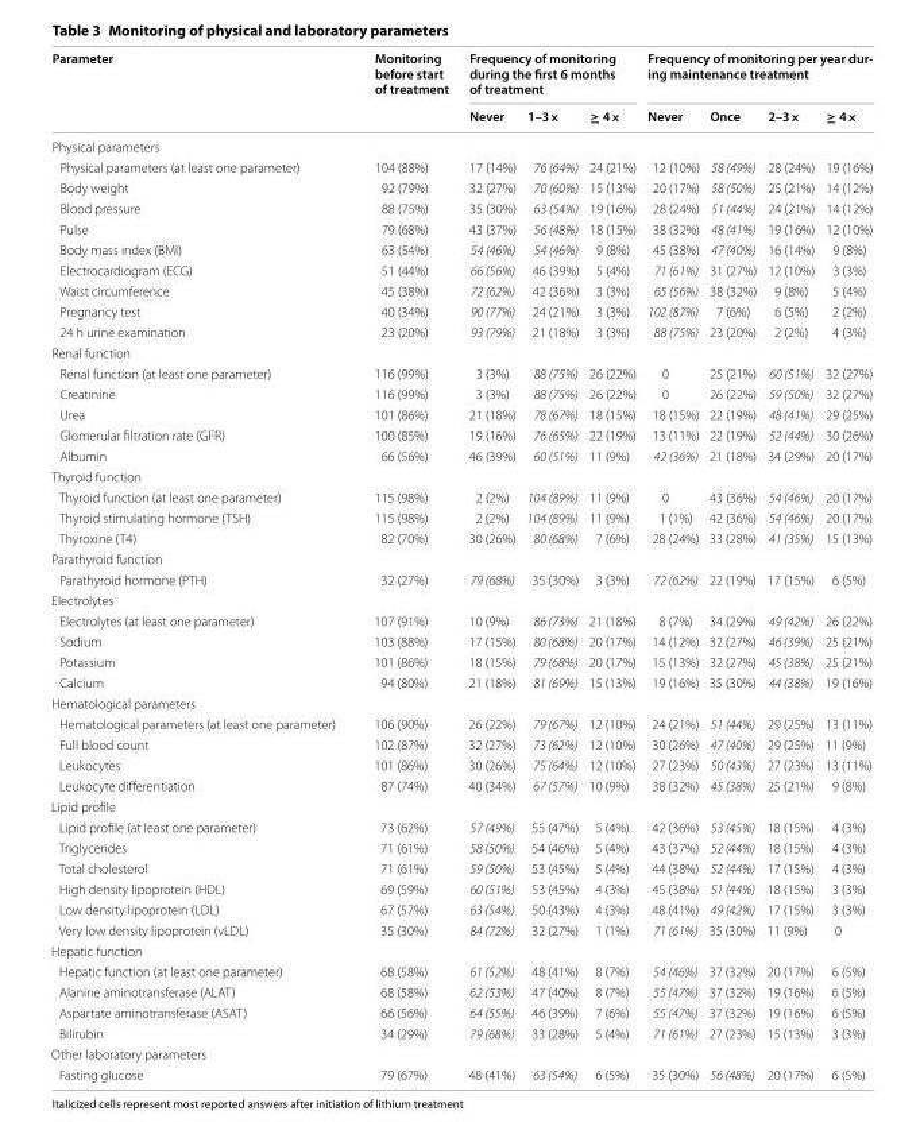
<table><thead><tr><td rowspan="2">Parameter</td><td rowspan="2">Monitoring before start of treatment</td><td colspan="3">Frequency of monitoring during the first 6 months of treatment</td><td colspan="4">Frequency of monitoring per year dur- ing maintenance treatment</td></tr><tr><td>Never</td><td>1–3×</td><td>≥ 4×</td><td>Never</td><td>Once</td><td>2–3×</td><td>≥ 4×</td></tr></thead><tbody><tr><td colspan="9">Physical parameters</td></tr><tr><td>Physical parameters (at least one parameter)</td><td>104 (88%)</td><td>17 (14%)</td><td>76 (64%)</td><td>24 (21%)</td><td>12 (10%)</td><td>58 (49%)</td><td>28 (24%)</td><td>19 (16%)</td></tr><tr><td>Body weight</td><td>92 (79%)</td><td>32 (27%)</td><td>70 (60%)</td><td>15 (13%)</td><td>20 (17%)</td><td>58 (50%)</td><td>25 (21%)</td><td>14 (12%)</td></tr><tr><td>Blood pressure</td><td>88 (75%)</td><td>35 (30%)</td><td>63 (54%)</td><td>19 (16%)</td><td>28 (24%)</td><td>51 (44%)</td><td>24 (21%)</td><td>14 (12%)</td></tr><tr><td>Pulse</td><td>79 (68%)</td><td>43 (37%)</td><td>56 (48%)</td><td>18 (15%)</td><td>38 (32%)</td><td>48 (41%)</td><td>19 (16%)</td><td>12 (10%)</td></tr><tr><td>Body mass index (BMI)</td><td>63 (54%)</td><td>54 (46%)</td><td>54 (46%)</td><td>9 (8%)</td><td>45 (38%)</td><td>47 (40%)</td><td>16 (14%)</td><td>9 (8%)</td></tr><tr><td>Electrocardiogram (ECG)</td><td>51 (44%)</td><td>66 (56%)</td><td>46 (39%)</td><td>5 (4%)</td><td>71 (61%)</td><td>31 (27%)</td><td>12 (10%)</td><td>3 (3%)</td></tr><tr><td>Waist circumference</td><td>45 (38%)</td><td>72 (62%)</td><td>42 (36%)</td><td>3 (3%)</td><td>65 (56%)</td><td>38 (32%)</td><td>9 (8%)</td><td>5 (4%)</td></tr><tr><td>Pregnancy test</td><td>40 (34%)</td><td>90 (77%)</td><td>24 (21%)</td><td>3 (3%)</td><td>102 (87%)</td><td>7 (6%)</td><td>6 (5%)</td><td>2 (2%)</td></tr><tr><td>24 h urine examination</td><td>23 (20%)</td><td>93 (79%)</td><td>21 (18%)</td><td>3 (3%)</td><td>88 (75%)</td><td>23 (20%)</td><td>2 (2%)</td><td>4 (3%)</td></tr><tr><td colspan="9">Renal function</td></tr><tr><td>Renal function (at least one parameter)</td><td>116 (99%)</td><td>3 (3%)</td><td>88 (75%)</td><td>26 (22%)</td><td>0</td><td>25 (21%)</td><td>60 (51%)</td><td>32 (27%)</td></tr><tr><td>Creatinine</td><td>116 (99%)</td><td>3 (3%)</td><td>88 (75%)</td><td>26 (22%)</td><td>0</td><td>26 (22%)</td><td>59 (50%)</td><td>32 (27%)</td></tr><tr><td>Urea</td><td>101 (86%)</td><td>21 (18%)</td><td>78 (67%)</td><td>18 (15%)</td><td>18 (15%)</td><td>22 (19%)</td><td>48 (41%)</td><td>29 (25%)</td></tr><tr><td>Glomerular filtration rate (GFR)</td><td>100 (85%)</td><td>19 (16%)</td><td>76 (65%)</td><td>22 (19%)</td><td>13 (11%)</td><td>22 (19%)</td><td>52 (44%)</td><td>30 (26%)</td></tr><tr><td>Albumin</td><td>66 (56%)</td><td>46 (39%)</td><td>60 (51%)</td><td>11 (9%)</td><td>42 (36%)</td><td>21 (18%)</td><td>34 (29%)</td><td>20 (17%)</td></tr><tr><td colspan="9">Thyroid function</td></tr><tr><td>Thyroid function (at least one parameter)</td><td>115 (98%)</td><td>2 (2%)</td><td>104 (89%)</td><td>11 (9%)</td><td>0</td><td>43 (36%)</td><td>54 (46%)</td><td>20 (17%)</td></tr><tr><td>Thyroid stimulating hormone (TSH)</td><td>115 (98%)</td><td>2 (2%)</td><td>104 (89%)</td><td>11 (9%)</td><td>1 (1%)</td><td>42 (36%)</td><td>54 (46%)</td><td>20 (17%)</td></tr><tr><td>Thyroxine (T4)</td><td>82 (70%)</td><td>30 (26%)</td><td>80 (68%)</td><td>7 (6%)</td><td>28 (24%)</td><td>33 (28%)</td><td>41 (35%)</td><td>15 (13%)</td></tr><tr><td colspan="9">Parathyroid function</td></tr><tr><td>Parathyroid hormone (PTH)</td><td>32 (27%)</td><td>79 (68%)</td><td>35 (30%)</td><td>3 (3%)</td><td>72 (62%)</td><td>22 (19%)</td><td>17 (15%)</td><td>6 (5%)</td></tr><tr><td colspan="9">Electrolytes</td></tr><tr><td>Electrolytes (at least one parameter)</td><td>107 (91%)</td><td>10 (9%)</td><td>86 (73%)</td><td>21 (18%)</td><td>8 (7%)</td><td>34 (29%)</td><td>49 (42%)</td><td>26 (22%)</td></tr><tr><td>Sodium</td><td>103 (88%)</td><td>17 (15%)</td><td>80 (68%)</td><td>20 (17%)</td><td>14 (12%)</td><td>32 (27%)</td><td>46 (39%)</td><td>25 (21%)</td></tr><tr><td>Potassium</td><td>101 (86%)</td><td>18 (15%)</td><td>79 (68%)</td><td>20 (17%)</td><td>15 (13%)</td><td>32 (27%)</td><td>45 (38%)</td><td>25 (21%)</td></tr><tr><td>Calcium</td><td>94 (80%)</td><td>21 (18%)</td><td>81 (69%)</td><td>15 (13%)</td><td>19 (16%)</td><td>35 (30%)</td><td>44 (38%)</td><td>19 (16%)</td></tr><tr><td colspan="9">Hematological parameters</td></tr><tr><td>Hematological parameters (at least one parameter)</td><td>106 (90%)</td><td>26 (22%)</td><td>79 (67%)</td><td>12 (10%)</td><td>24 (21%)</td><td>51 (44%)</td><td>29 (25%)</td><td>13 (11%)</td></tr><tr><td>Full blood count</td><td>102 (87%)</td><td>32 (27%)</td><td>73 (62%)</td><td>12 (10%)</td><td>30 (26%)</td><td>47 (40%)</td><td>29 (25%)</td><td>11 (9%)</td></tr><tr><td>Leukocytes</td><td>101 (86%)</td><td>30 (26%)</td><td>75 (64%)</td><td>12 (10%)</td><td>27 (23%)</td><td>50 (43%)</td><td>27 (23%)</td><td>13 (11%)</td></tr><tr><td>Leukocyte differentiation</td><td>87 (74%)</td><td>40 (34%)</td><td>67 (57%)</td><td>10 (9%)</td><td>38 (32%)</td><td>45 (38%)</td><td>25 (21%)</td><td>9 (8%)</td></tr><tr><td colspan="9">Lipid profile</td></tr><tr><td>Lipid profile (at least one parameter)</td><td>73 (62%)</td><td>57 (49%)</td><td>55 (47%)</td><td>5 (4%)</td><td>42 (36%)</td><td>53 (45%)</td><td>18 (15%)</td><td>4 (3%)</td></tr><tr><td>Triglycerides</td><td>71 (61%)</td><td>58 (50%)</td><td>54 (46%)</td><td>5 (4%)</td><td>43 (37%)</td><td>52 (44%)</td><td>18 (15%)</td><td>4 (3%)</td></tr><tr><td>Total cholesterol</td><td>71 (61%)</td><td>59 (50%)</td><td>53 (45%)</td><td>5 (4%)</td><td>44 (38%)</td><td>52 (44%)</td><td>17 (15%)</td><td>4 (3%)</td></tr><tr><td>High density lipoprotein (HDL)</td><td>69 (59%)</td><td>60 (51%)</td><td>53 (45%)</td><td>4 (3%)</td><td>45 (38%)</td><td>51 (44%)</td><td>18 (15%)</td><td>3 (3%)</td></tr><tr><td>Low density lipoprotein (LDL)</td><td>67 (57%)</td><td>63 (54%)</td><td>50 (43%)</td><td>4 (3%)</td><td>48 (41%)</td><td>49 (42%)</td><td>17 (15%)</td><td>3 (3%)</td></tr><tr><td>Very low density lipoprotein (vLDL)</td><td>35 (30%)</td><td>84 (72%)</td><td>32 (27%)</td><td>1 (1%)</td><td>71 (61%)</td><td>35 (30%)</td><td>11 (9%)</td><td>0</td></tr><tr><td colspan="9">Hepatic function</td></tr><tr><td>Hepatic function (at least one parameter)</td><td>68 (58%)</td><td>61 (52%)</td><td>48 (41%)</td><td>8 (7%)</td><td>54 (46%)</td><td>37 (32%)</td><td>20 (17%)</td><td>6 (5%)</td></tr><tr><td>Alanine aminotransferase (ALAT)</td><td>68 (58%)</td><td>62 (53%)</td><td>47 (40%)</td><td>8 (7%)</td><td>55 (47%)</td><td>37 (32%)</td><td>19 (16%)</td><td>6 (5%)</td></tr><tr><td>Aspartate aminotransferase (ASAT)</td><td>66 (56%)</td><td>64 (55%)</td><td>46 (39%)</td><td>7 (6%)</td><td>55 (47%)</td><td>37 (32%)</td><td>19 (16%)</td><td>6 (5%)</td></tr><tr><td>Bilirubin</td><td>34 (29%)</td><td>79 (68%)</td><td>33 (28%)</td><td>5 (4%)</td><td>71 (61%)</td><td>27 (23%)</td><td>15 (13%)</td><td>3 (3%)</td></tr><tr><td colspan="9">Other laboratory parameters</td></tr><tr><td>Fasting glucose</td><td>79 (67%)</td><td>48 (41%)</td><td>63 (54%)</td><td>6 (5%)</td><td>35 (30%)</td><td>56 (48%)</td><td>20 (17%)</td><td>6 (5%)</td></tr></tbody></table>